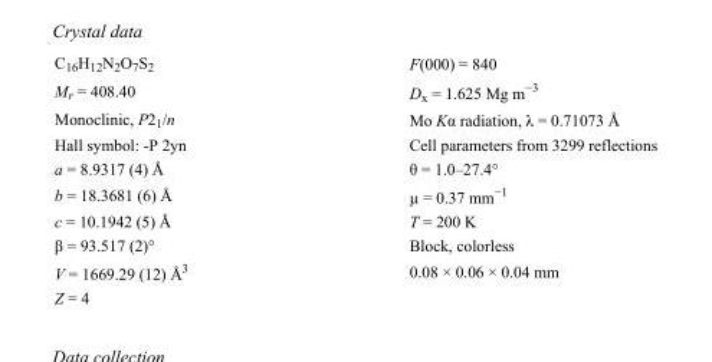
<table><tbody><tr><td>C<sub>16</sub>H<sub>12</sub>N<sub>2</sub>O<sub>7</sub>S<sub>2</sub></td><td>F(000) = 840</td></tr><tr><td>M<sub>r</sub> = 408.40</td><td>D<sub>x</sub> = 1.625 Mg m<sup>−3</sup></td></tr><tr><td>Monoclinic, P2<sub>1</sub>/n</td><td>Mo Kα radiation, λ = 0.71073 Å</td></tr><tr><td>Hall symbol: -P 2yn</td><td>Cell parameters from 3299 reflections</td></tr><tr><td>a = 8.9317 (4) Å</td><td>θ = 1.0–27.4°</td></tr><tr><td>b = 18.3681 (6) Å</td><td>µ = 0.37 mm<sup>−1</sup></td></tr><tr><td>c = 10.1942 (5) Å</td><td>T = 200 K</td></tr><tr><td>β = 93.517 (2)°</td><td>Block, colorless</td></tr><tr><td>V = 1669.29 (12) Å<sup>3</sup></td><td>0.08 × 0.06 × 0.04 mm</td></tr><tr><td>Z = 4</td><td></td></tr></tbody></table>